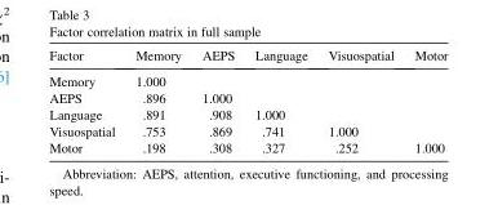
<table><thead><tr><td>Factor</td><td>Memory</td><td>AEPS</td><td>Language</td><td>Visuospatial</td><td>Motor</td></tr></thead><tbody><tr><td>Memory</td><td>1.000</td><td></td><td></td><td></td><td></td></tr><tr><td>AEPS</td><td>.896</td><td>1.000</td><td></td><td></td><td></td></tr><tr><td>Language</td><td>.891</td><td>.908</td><td>1.000</td><td></td><td></td></tr><tr><td>Visuospatial</td><td>.753</td><td>.869</td><td>.741</td><td>1.000</td><td></td></tr><tr><td>Motor</td><td>.198</td><td>.308</td><td>.327</td><td>.252</td><td>1.000</td></tr></tbody></table>